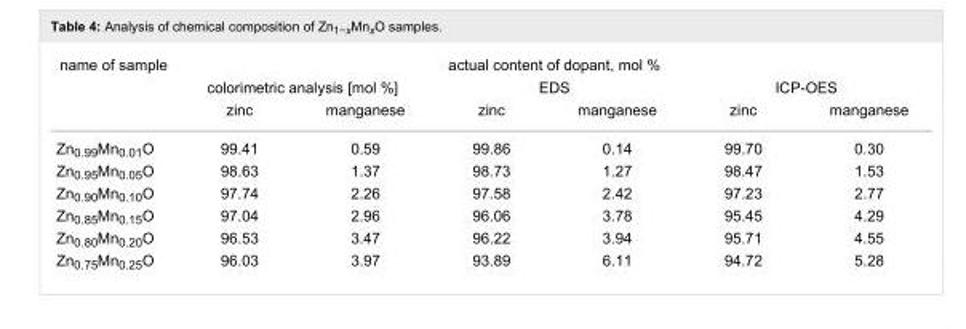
<table><tbody><tr><td rowspan="3">name of sample</td><td colspan="6">actual content of dopant, mol %</td></tr><tr><td colspan="2">colorimetric analysis [mol %]</td><td colspan="2">EDS</td><td colspan="2">ICP-OES</td></tr><tr><td>zinc</td><td>manganese</td><td>zinc</td><td>manganese</td><td>zinc</td><td>manganese</td></tr><tr><td>Zn<sub>0.99</sub>Mn<sub>0.01</sub>O</td><td>99.41</td><td>0.59</td><td>99.86</td><td>0.14</td><td>99.70</td><td>0.30</td></tr><tr><td>Zn<sub>0.95</sub>Mn<sub>0.05</sub>O</td><td>98.63</td><td>1.37</td><td>98.73</td><td>1.27</td><td>98.47</td><td>1.53</td></tr><tr><td>Zn<sub>0.90</sub>Mn<sub>0.10</sub>O</td><td>97.74</td><td>2.26</td><td>97.58</td><td>2.42</td><td>97.23</td><td>2.77</td></tr><tr><td>Zn<sub>0.85</sub>Mn<sub>0.15</sub>O</td><td>97.04</td><td>2.96</td><td>96.06</td><td>3.78</td><td>95.45</td><td>4.29</td></tr><tr><td>Zn<sub>0.80</sub>Mn<sub>0.20</sub>O</td><td>96.53</td><td>3.47</td><td>96.22</td><td>3.94</td><td>95.71</td><td>4.55</td></tr><tr><td>Zn<sub>0.75</sub>Mn<sub>0.25</sub>O</td><td>96.03</td><td>3.97</td><td>93.89</td><td>6.11</td><td>94.72</td><td>5.28</td></tr></tbody></table>